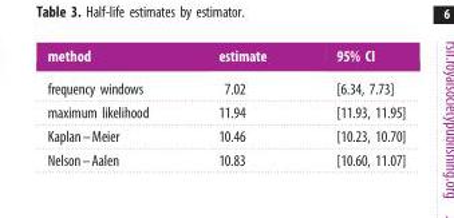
<table><thead><tr><td>method</td><td>estimate</td><td>95% CI</td></tr></thead><tbody><tr><td>frequency windows</td><td>7.02</td><td>[6.34, 7.73]</td></tr><tr><td>maximum likelihood</td><td>11.94</td><td>[11.93, 11.95]</td></tr><tr><td>Kaplan–Meier</td><td>10.46</td><td>[10.23, 10.70]</td></tr><tr><td>Nelson–Aalen</td><td>10.83</td><td>[10.60, 11.07]</td></tr></tbody></table>